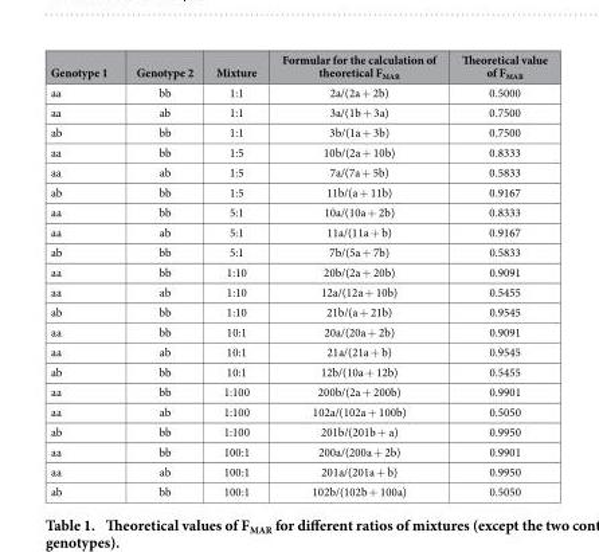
<table><thead><tr><td>Genotype 1</td><td>Genotype 2</td><td>Mixture</td><td>Formular for the calculation of theoretical F<sub>MAR</sub></td><td>Theoretical value of F<sub>MAR</sub></td></tr></thead><tbody><tr><td>aa</td><td>bb</td><td>1:1</td><td>2a/(2a + 2b)</td><td>0.5000</td></tr><tr><td>aa</td><td>ab</td><td>1:1</td><td>3a/(1b + 3a)</td><td>0.7500</td></tr><tr><td>ab</td><td>bb</td><td>1:1</td><td>3b/(1a + 3b)</td><td>0.7500</td></tr><tr><td>aa</td><td>bb</td><td>1:5</td><td>10b/(2a + 10b)</td><td>0.8333</td></tr><tr><td>aa</td><td>ab</td><td>1:5</td><td>7a/(7a + 5b)</td><td>0.5833</td></tr><tr><td>ab</td><td>bb</td><td>1:5</td><td>11b/(a + 11b)</td><td>0.9167</td></tr><tr><td>aa</td><td>bb</td><td>5:1</td><td>10a/(10a + 2b)</td><td>0.8333</td></tr><tr><td>aa</td><td>ab</td><td>5:1</td><td>11a/(11a + b)</td><td>0.9167</td></tr><tr><td>ab</td><td>bb</td><td>5:1</td><td>7b/(5a + 7b)</td><td>0.5833</td></tr><tr><td>aa</td><td>bb</td><td>1:10</td><td>20b/(2a + 20b)</td><td>0.9091</td></tr><tr><td>aa</td><td>ab</td><td>1:10</td><td>12a/(12a + 10b)</td><td>0.5455</td></tr><tr><td>ab</td><td>bb</td><td>1:10</td><td>21b/(a + 21b)</td><td>0.9545</td></tr><tr><td>aa</td><td>bb</td><td>10:1</td><td>20a/(20a + 2b)</td><td>0.9091</td></tr><tr><td>aa</td><td>ab</td><td>10:1</td><td>21a/(21a + b)</td><td>0.9545</td></tr><tr><td>ab</td><td>bb</td><td>10:1</td><td>12b/(10a + 12b)</td><td>0.5455</td></tr><tr><td>aa</td><td>bb</td><td>1:100</td><td>200b/(2a + 200b)</td><td>0.9901</td></tr><tr><td>aa</td><td>ab</td><td>1:100</td><td>102a/(102a + 100b)</td><td>0.5050</td></tr><tr><td>ab</td><td>bb</td><td>1:100</td><td>201b/(201b + a)</td><td>0.9950</td></tr><tr><td>aa</td><td>bb</td><td>100:1</td><td>200a/(200a + 2b)</td><td>0.9901</td></tr><tr><td>aa</td><td>ab</td><td>100:1</td><td>201a/(201a + b)</td><td>0.9950</td></tr><tr><td>ab</td><td>bb</td><td>100:1</td><td>102b/(102b + 100a)</td><td>0.5050</td></tr></tbody></table>